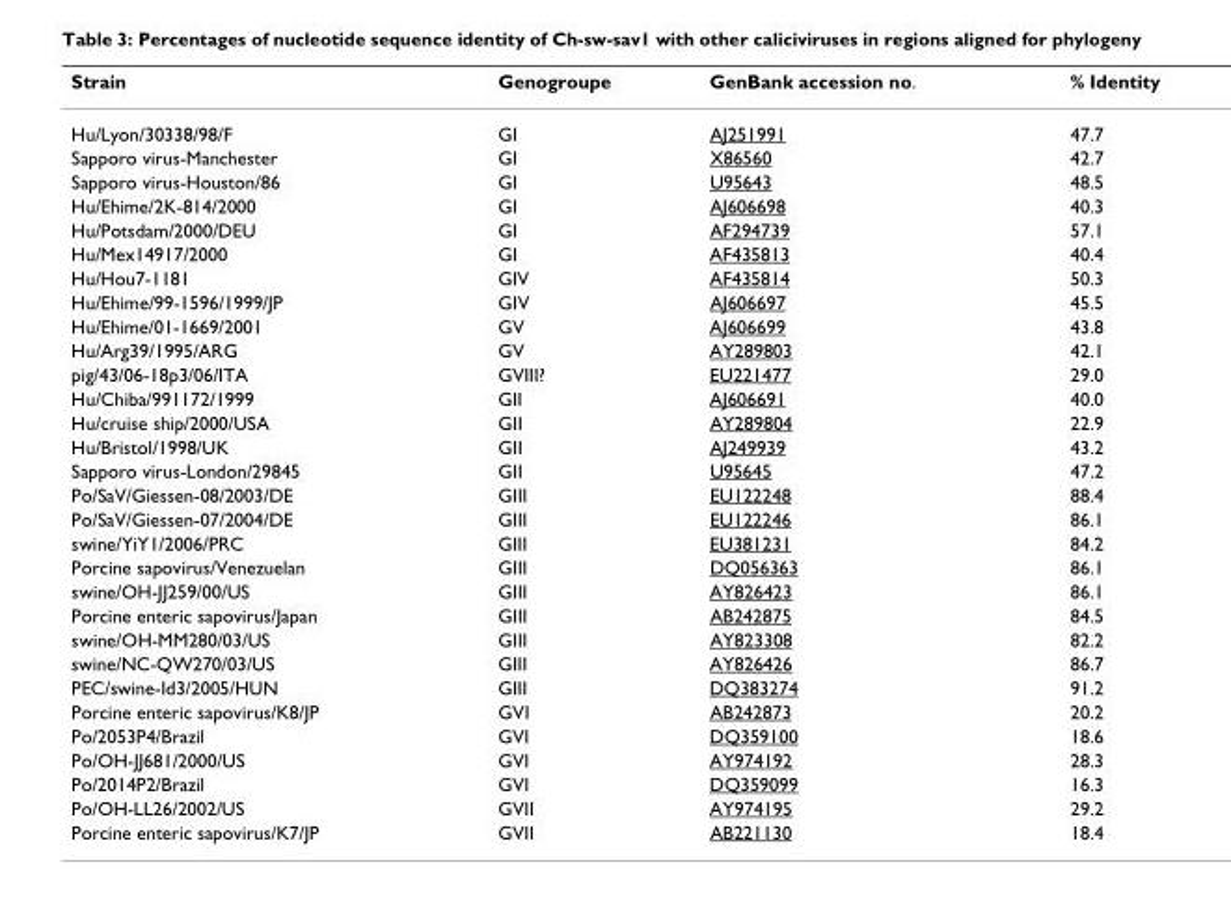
<table><thead><tr><td>Strain</td><td>Genogroupe</td><td>GenBank accession no.</td><td>% Identity</td></tr></thead><tbody><tr><td>Hu/Lyon/30338/98/F</td><td>GI</td><td>AJ251991</td><td>47.7</td></tr><tr><td>Sapporo virus-Manchester</td><td>GI</td><td>X86560</td><td>42.7</td></tr><tr><td>Sapporo virus-Houston/86</td><td>GI</td><td>U95643</td><td>48.5</td></tr><tr><td>Hu/Ehime/2K-814/2000</td><td>GI</td><td>AJ606698</td><td>40.3</td></tr><tr><td>Hu/Potsdam/2000/DEU</td><td>GI</td><td>AF294739</td><td>57.1</td></tr><tr><td>Hu/Mex14917/2000</td><td>GI</td><td>AF435813</td><td>40.4</td></tr><tr><td>Hu/Hou7-1181</td><td>GIV</td><td>AF435814</td><td>50.3</td></tr><tr><td>Hu/Ehime/99-1596/1999/JP</td><td>GIV</td><td>AJ606697</td><td>45.5</td></tr><tr><td>Hu/Ehime/01-1669/2001</td><td>GV</td><td>AJ606699</td><td>43.8</td></tr><tr><td>Hu/Arg39/1995/ARG</td><td>GV</td><td>AY289803</td><td>42.1</td></tr><tr><td>pig/43/06-18p3/06/ITA</td><td>GVIII?</td><td>EU221477</td><td>29.0</td></tr><tr><td>Hu/Chiba/991172/1999</td><td>GII</td><td>AJ606691</td><td>40.0</td></tr><tr><td>Hu/cruise ship/2000/USA</td><td>GII</td><td>AY289804</td><td>22.9</td></tr><tr><td>Hu/Bristol/1998/UK</td><td>GII</td><td>AJ249939</td><td>43.2</td></tr><tr><td>Sapporo virus-London/29845</td><td>GII</td><td>U95645</td><td>47.2</td></tr><tr><td>Po/SaV/Giessen-08/2003/DE</td><td>GIII</td><td>EU122248</td><td>88.4</td></tr><tr><td>Po/SaV/Giessen-07/2004/DE</td><td>GIII</td><td>EU122246</td><td>86.1</td></tr><tr><td>swine/YiY1/2006/PRC</td><td>GIII</td><td>EU381231</td><td>84.2</td></tr><tr><td>Porcine sapovirus/Venezuelan</td><td>GIII</td><td>DQ056363</td><td>86.1</td></tr><tr><td>swine/OH-JJ259/00/US</td><td>GIII</td><td>AY826423</td><td>86.1</td></tr><tr><td>Porcine enteric sapovirus/Japan</td><td>GIII</td><td>AB242875</td><td>84.5</td></tr><tr><td>swine/OH-MM280/03/US</td><td>GIII</td><td>AY823308</td><td>82.2</td></tr><tr><td>swine/NC-QW270/03/US</td><td>GIII</td><td>AY826426</td><td>86.7</td></tr><tr><td>PEC/swine-Id3/2005/HUN</td><td>GIII</td><td>DQ383274</td><td>91.2</td></tr><tr><td>Porcine enteric sapovirus/K8/JP</td><td>GVI</td><td>AB242873</td><td>20.2</td></tr><tr><td>Po/2053P4/Brazil</td><td>GVI</td><td>DQ359100</td><td>18.6</td></tr><tr><td>Po/OH-JJ681/2000/US</td><td>GVI</td><td>AY974192</td><td>28.3</td></tr><tr><td>Po/2014P2/Brazil</td><td>GVI</td><td>DQ359099</td><td>16.3</td></tr><tr><td>Po/OH-LL26/2002/US</td><td>GVII</td><td>AY974195</td><td>29.2</td></tr><tr><td>Porcine enteric sapovirus/K7/JP</td><td>GVII</td><td>AB221130</td><td>18.4</td></tr></tbody></table>